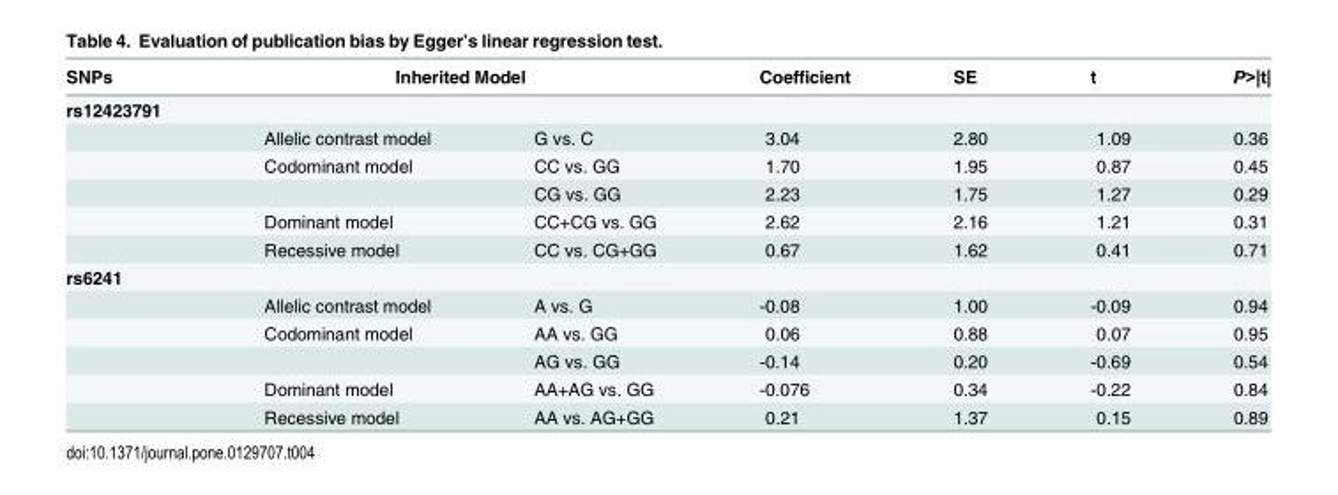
<table><thead><tr><td rowspan="2">SNPs rs12423791</td><td colspan="2">Inherited Model</td><td rowspan="2">Coefficient</td><td rowspan="2">SE</td><td rowspan="2">t</td><td rowspan="2">P&gt;|t|</td></tr><tr><td></td><td></td></tr></thead><tbody><tr><td></td><td>Allelic contrast model</td><td>G vs. C</td><td>3.04</td><td>2.80</td><td>1.09</td><td>0.36</td></tr><tr><td></td><td>Codominant model</td><td>CC vs. GG</td><td>1.70</td><td>1.95</td><td>0.87</td><td>0.45</td></tr><tr><td></td><td></td><td>CG vs. GG</td><td>2.23</td><td>1.75</td><td>1.27</td><td>0.29</td></tr><tr><td></td><td>Dominant model</td><td>CC+CG vs. GG</td><td>2.62</td><td>2.16</td><td>1.21</td><td>0.31</td></tr><tr><td></td><td>Recessive model</td><td>CC vs. CG+GG</td><td>0.67</td><td>1.62</td><td>0.41</td><td>0.71</td></tr><tr><td colspan="7">rs6241</td></tr><tr><td></td><td>Allelic contrast model</td><td>A vs. G</td><td>-0.08</td><td>1.00</td><td>-0.09</td><td>0.94</td></tr><tr><td></td><td>Codominant model</td><td>AA vs. GG</td><td>0.06</td><td>0.88</td><td>0.07</td><td>0.95</td></tr><tr><td></td><td></td><td>AG vs. GG</td><td>-0.14</td><td>0.20</td><td>-0.69</td><td>0.54</td></tr><tr><td></td><td>Dominant model</td><td>AA+AG vs. GG</td><td>-0.076</td><td>0.34</td><td>-0.22</td><td>0.84</td></tr><tr><td></td><td>Recessive model</td><td>AA vs. AG+GG</td><td>0.21</td><td>1.37</td><td>0.15</td><td>0.89</td></tr></tbody></table>